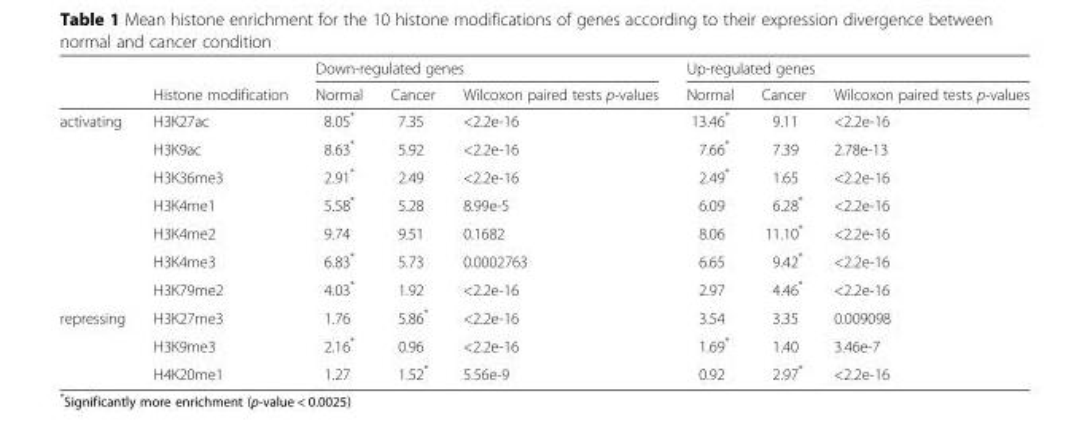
<table><thead><tr><td rowspan="2"></td><td rowspan="2">Histone modification</td><td colspan="3">Down-regulated genes</td><td colspan="3">Up-regulated genes</td></tr><tr><td>Normal</td><td>Cancer</td><td>Wilcoxon paired tests p-values</td><td>Normal</td><td>Cancer</td><td>Wilcoxon paired tests p-values</td></tr></thead><tbody><tr><td rowspan="7">activating</td><td>H3K27ac</td><td>8.05*</td><td>7.35</td><td>&lt;2.2e-16</td><td>13.46*</td><td>9.11</td><td>&lt;2.2e-16</td></tr><tr><td>H3K9ac</td><td>8.63*</td><td>5.92</td><td>&lt;2.2e-16</td><td>7.66*</td><td>7.39</td><td>2.78e-13</td></tr><tr><td>H3K36me3</td><td>2.91*</td><td>2.49</td><td>&lt;2.2e-16</td><td>2.49*</td><td>1.65</td><td>&lt;2.2e-16</td></tr><tr><td>H3K4me1</td><td>5.58*</td><td>5.28</td><td>8.99e-5</td><td>6.09</td><td>6.28*</td><td>&lt;2.2e-16</td></tr><tr><td>H3K4me2</td><td>9.74</td><td>9.51</td><td>0.1682</td><td>8.06</td><td>11.10*</td><td>&lt;2.2e-16</td></tr><tr><td>H3K4me3</td><td>6.83*</td><td>5.73</td><td>0.0002763</td><td>6.65</td><td>9.42*</td><td>&lt;2.2e-16</td></tr><tr><td>H3K79me2</td><td>4.03*</td><td>1.92</td><td>&lt;2.2e-16</td><td>2.97</td><td>4.46*</td><td>&lt;2.2e-16</td></tr><tr><td rowspan="3">repressing</td><td>H3K27me3</td><td>1.76</td><td>5.86*</td><td>&lt;2.2e-16</td><td>3.54</td><td>3.35</td><td>0.009098</td></tr><tr><td>H3K9me3</td><td>2.16*</td><td>0.96</td><td>&lt;2.2e-16</td><td>1.69*</td><td>1.40</td><td>3.46e-7</td></tr><tr><td>H4K20me1</td><td>1.27</td><td>1.52*</td><td>5.56e-9</td><td>0.92</td><td>2.97*</td><td>&lt;2.2e-16</td></tr></tbody></table>